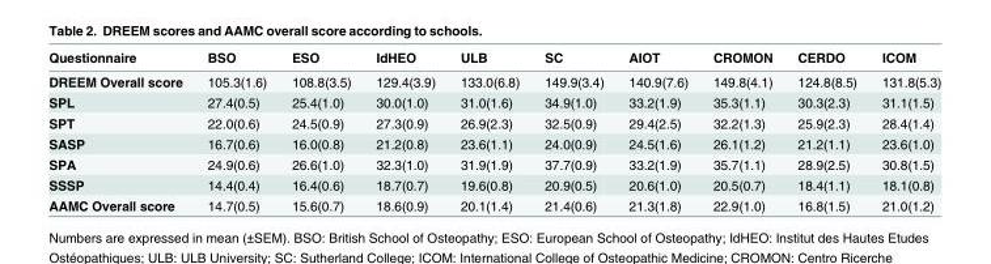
<table><thead><tr><td>Questionnaire</td><td>BSO</td><td>ESO</td><td>IdHEO</td><td>ULB</td><td>SC</td><td>AIOT</td><td>CROMON</td><td>CERDO</td><td>ICOM</td></tr></thead><tbody><tr><td>DREEM Overall score</td><td>105.3(1.6)</td><td>108.8(3.5)</td><td>129.4(3.9)</td><td>133.0(6.8)</td><td>149.9(3.4)</td><td>140.9(7.6)</td><td>149.8(4.1)</td><td>124.8(8.5)</td><td>131.8(5.3)</td></tr><tr><td>SPL</td><td>27.4(0.5)</td><td>25.4(1.0)</td><td>30.0(1.0)</td><td>31.0(1.6)</td><td>34.9(1.0)</td><td>33.2(1.9)</td><td>35.3(1.1)</td><td>30.3(2.3)</td><td>31.1(1.5)</td></tr><tr><td>SPT</td><td>22.0(0.6)</td><td>24.5(0.9)</td><td>27.3(0.9)</td><td>26.9(2.3)</td><td>32.5(0.9)</td><td>29.4(2.5)</td><td>32.2(1.3)</td><td>25.9(2.3)</td><td>28.4(1.4)</td></tr><tr><td>SASP</td><td>16.7(0.6)</td><td>16.0(0.8)</td><td>21.2(0.8)</td><td>23.6(1.1)</td><td>24.0(0.9)</td><td>24.5(1.6)</td><td>26.1(1.2)</td><td>21.2(1.1)</td><td>23.6(1.0)</td></tr><tr><td>SPA</td><td>24.9(0.6)</td><td>26.6(1.0)</td><td>32.3(1.0)</td><td>31.9(1.9)</td><td>37.7(0.9)</td><td>33.2(1.9)</td><td>35.7(1.1)</td><td>28.9(2.5)</td><td>30.8(1.5)</td></tr><tr><td>SSSP</td><td>14.4(0.4)</td><td>16.4(0.6)</td><td>18.7(0.7)</td><td>19.6(0.8)</td><td>20.9(0.5)</td><td>20.6(1.0)</td><td>20.5(0.7)</td><td>18.4(1.1)</td><td>18.1(0.8)</td></tr><tr><td>AAMC Overall score</td><td>14.7(0.5)</td><td>15.6(0.7)</td><td>18.6(0.9)</td><td>20.1(1.4)</td><td>21.4(0.6)</td><td>21.3(1.8)</td><td>22.9(1.0)</td><td>16.8(1.5)</td><td>21.0(1.2)</td></tr></tbody></table>